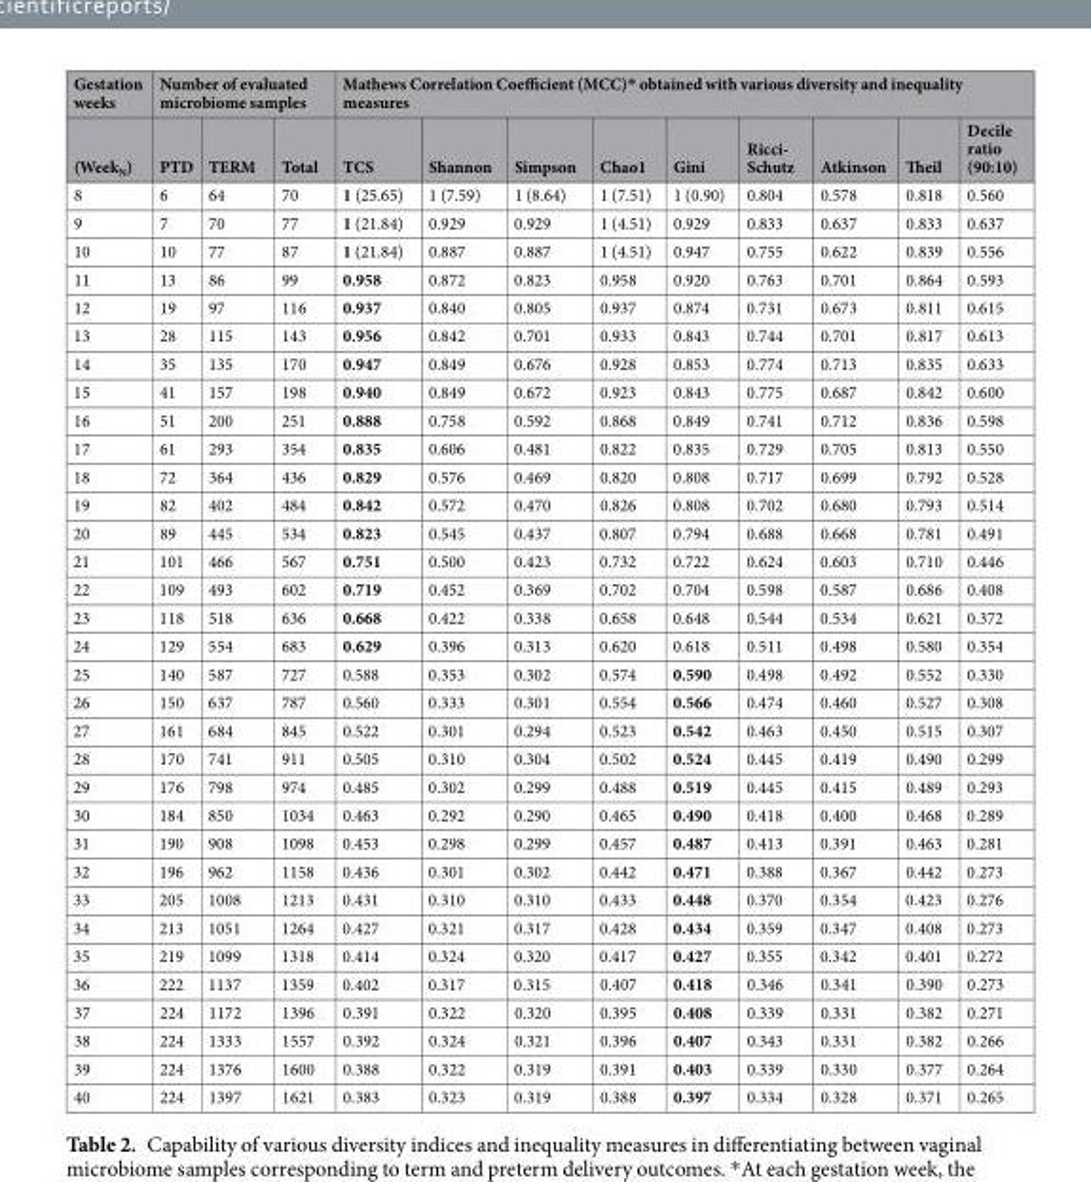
<table><thead><tr><td rowspan="2">Gestation weeks (Week<sub>N</sub>)</td><td colspan="3">Number of evaluated microbiome samples</td><td colspan="9">Mathews Correlation Coefficient (MCC)* obtained with various diversity and inequality measures</td></tr><tr><td>PTD</td><td>TERM</td><td>Total</td><td>TCS</td><td>Shannon</td><td>Simpson</td><td>Chao1</td><td>Gini</td><td>Ricci- Schutz</td><td>Atkinson</td><td>Theil</td><td>Decile ratio (90:10)</td></tr></thead><tbody><tr><td>8</td><td>6</td><td>64</td><td>70</td><td>1 (25.65)</td><td>1 (7.59)</td><td>1 (8.64)</td><td>1 (7.51)</td><td>1 (0.90)</td><td>0.804</td><td>0.578</td><td>0.818</td><td>0.560</td></tr><tr><td>9</td><td>7</td><td>70</td><td>77</td><td>1 (21.84)</td><td>0.929</td><td>0.929</td><td>1 (4.51)</td><td>0.929</td><td>0.833</td><td>0.637</td><td>0.833</td><td>0.637</td></tr><tr><td>10</td><td>10</td><td>77</td><td>87</td><td>1 (21.84)</td><td>0.887</td><td>0.887</td><td>1 (4.51)</td><td>0.947</td><td>0.755</td><td>0.622</td><td>0.839</td><td>0.556</td></tr><tr><td>11</td><td>13</td><td>86</td><td>99</td><td>0.958</td><td>0.872</td><td>0.823</td><td>0.958</td><td>0.920</td><td>0.763</td><td>0.701</td><td>0.864</td><td>0.593</td></tr><tr><td>12</td><td>19</td><td>97</td><td>116</td><td>0.937</td><td>0.840</td><td>0.805</td><td>0.937</td><td>0.874</td><td>0.731</td><td>0.673</td><td>0.811</td><td>0.615</td></tr><tr><td>13</td><td>28</td><td>115</td><td>143</td><td>0.956</td><td>0.842</td><td>0.701</td><td>0.933</td><td>0.843</td><td>0.744</td><td>0.701</td><td>0.817</td><td>0.613</td></tr><tr><td>14</td><td>35</td><td>135</td><td>170</td><td>0.947</td><td>0.849</td><td>0.676</td><td>0.928</td><td>0.853</td><td>0.774</td><td>0.713</td><td>0.835</td><td>0.633</td></tr><tr><td>15</td><td>41</td><td>157</td><td>198</td><td>0.940</td><td>0.849</td><td>0.672</td><td>0.923</td><td>0.843</td><td>0.775</td><td>0.687</td><td>0.842</td><td>0.600</td></tr><tr><td>16</td><td>51</td><td>200</td><td>251</td><td>0.888</td><td>0.758</td><td>0.592</td><td>0.868</td><td>0.849</td><td>0.741</td><td>0.712</td><td>0.836</td><td>0.598</td></tr><tr><td>17</td><td>61</td><td>293</td><td>354</td><td>0.835</td><td>0.606</td><td>0.481</td><td>0.822</td><td>0.835</td><td>0.729</td><td>0.705</td><td>0.813</td><td>0.550</td></tr><tr><td>18</td><td>72</td><td>364</td><td>436</td><td>0.829</td><td>0.576</td><td>0.469</td><td>0.820</td><td>0.808</td><td>0.717</td><td>0.699</td><td>0.792</td><td>0.528</td></tr><tr><td>19</td><td>82</td><td>402</td><td>484</td><td>0.842</td><td>0.572</td><td>0.470</td><td>0.826</td><td>0.808</td><td>0.702</td><td>0.680</td><td>0.793</td><td>0.514</td></tr><tr><td>20</td><td>89</td><td>445</td><td>534</td><td>0.823</td><td>0.545</td><td>0.437</td><td>0.807</td><td>0.794</td><td>0.688</td><td>0.668</td><td>0.781</td><td>0.491</td></tr><tr><td>21</td><td>101</td><td>466</td><td>567</td><td>0.751</td><td>0.500</td><td>0.423</td><td>0.732</td><td>0.722</td><td>0.624</td><td>0.603</td><td>0.710</td><td>0.446</td></tr><tr><td>22</td><td>109</td><td>493</td><td>602</td><td>0.719</td><td>0.452</td><td>0.369</td><td>0.702</td><td>0.704</td><td>0.598</td><td>0.587</td><td>0.686</td><td>0.408</td></tr><tr><td>23</td><td>118</td><td>518</td><td>636</td><td>0.668</td><td>0.422</td><td>0.338</td><td>0.658</td><td>0.648</td><td>0.544</td><td>0.534</td><td>0.621</td><td>0.372</td></tr><tr><td>24</td><td>129</td><td>554</td><td>683</td><td>0.629</td><td>0.396</td><td>0.313</td><td>0.620</td><td>0.618</td><td>0.511</td><td>0.498</td><td>0.580</td><td>0.354</td></tr><tr><td>25</td><td>140</td><td>587</td><td>727</td><td>0.588</td><td>0.353</td><td>0.302</td><td>0.574</td><td>0.590</td><td>0.498</td><td>0.492</td><td>0.552</td><td>0.330</td></tr><tr><td>26</td><td>150</td><td>637</td><td>787</td><td>0.560</td><td>0.333</td><td>0.301</td><td>0.554</td><td>0.566</td><td>0.474</td><td>0.460</td><td>0.527</td><td>0.308</td></tr><tr><td>27</td><td>161</td><td>684</td><td>845</td><td>0.522</td><td>0.301</td><td>0.294</td><td>0.523</td><td>0.542</td><td>0.463</td><td>0.450</td><td>0.515</td><td>0.307</td></tr><tr><td>28</td><td>170</td><td>741</td><td>911</td><td>0.505</td><td>0.310</td><td>0.304</td><td>0.502</td><td>0.524</td><td>0.445</td><td>0.419</td><td>0.490</td><td>0.299</td></tr><tr><td>29</td><td>176</td><td>798</td><td>974</td><td>0.485</td><td>0.302</td><td>0.299</td><td>0.488</td><td>0.519</td><td>0.445</td><td>0.415</td><td>0.489</td><td>0.293</td></tr><tr><td>30</td><td>184</td><td>850</td><td>1034</td><td>0.463</td><td>0.292</td><td>0.290</td><td>0.465</td><td>0.490</td><td>0.418</td><td>0.400</td><td>0.468</td><td>0.289</td></tr><tr><td>31</td><td>190</td><td>908</td><td>1098</td><td>0.453</td><td>0.298</td><td>0.299</td><td>0.457</td><td>0.487</td><td>0.413</td><td>0.391</td><td>0.463</td><td>0.281</td></tr><tr><td>32</td><td>196</td><td>962</td><td>1158</td><td>0.436</td><td>0.301</td><td>0.302</td><td>0.442</td><td>0.471</td><td>0.388</td><td>0.367</td><td>0.442</td><td>0.273</td></tr><tr><td>33</td><td>205</td><td>1008</td><td>1213</td><td>0.431</td><td>0.310</td><td>0.310</td><td>0.433</td><td>0.448</td><td>0.370</td><td>0.354</td><td>0.423</td><td>0.276</td></tr><tr><td>34</td><td>213</td><td>1051</td><td>1264</td><td>0.427</td><td>0.321</td><td>0.317</td><td>0.428</td><td>0.434</td><td>0.359</td><td>0.347</td><td>0.408</td><td>0.273</td></tr><tr><td>35</td><td>219</td><td>1099</td><td>1318</td><td>0.414</td><td>0.324</td><td>0.320</td><td>0.417</td><td>0.427</td><td>0.355</td><td>0.342</td><td>0.401</td><td>0.272</td></tr><tr><td>36</td><td>222</td><td>1137</td><td>1359</td><td>0.402</td><td>0.317</td><td>0.315</td><td>0.407</td><td>0.418</td><td>0.346</td><td>0.341</td><td>0.390</td><td>0.273</td></tr><tr><td>37</td><td>224</td><td>1172</td><td>1396</td><td>0.391</td><td>0.322</td><td>0.320</td><td>0.395</td><td>0.408</td><td>0.339</td><td>0.331</td><td>0.382</td><td>0.271</td></tr><tr><td>38</td><td>224</td><td>1333</td><td>1557</td><td>0.392</td><td>0.324</td><td>0.321</td><td>0.396</td><td>0.407</td><td>0.343</td><td>0.331</td><td>0.382</td><td>0.266</td></tr><tr><td>39</td><td>224</td><td>1376</td><td>1600</td><td>0.388</td><td>0.322</td><td>0.319</td><td>0.391</td><td>0.403</td><td>0.339</td><td>0.330</td><td>0.377</td><td>0.264</td></tr><tr><td>40</td><td>224</td><td>1397</td><td>1621</td><td>0.383</td><td>0.323</td><td>0.319</td><td>0.388</td><td>0.397</td><td>0.334</td><td>0.328</td><td>0.371</td><td>0.265</td></tr></tbody></table>